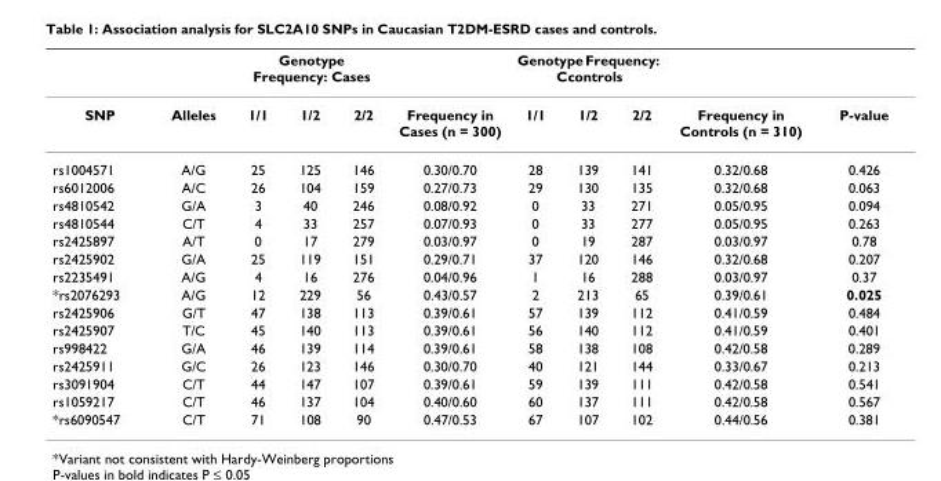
<table><thead><tr><td rowspan="2">SNP</td><td rowspan="2">Alleles</td><td colspan="3">Genotype Frequency: Cases</td><td rowspan="2">Frequency in Cases (n = 300)</td><td colspan="3">Genotype Frequency: Ccontrols</td><td rowspan="2">Frequency in Controls (n = 310)</td><td rowspan="2">P-value</td></tr><tr><td>1/1</td><td>1/2</td><td>2/2</td><td>1/1</td><td>1/2</td><td>2/2</td></tr></thead><tbody><tr><td>rs1004571</td><td>A/G</td><td>25</td><td>125</td><td>146</td><td>0.30/0.70</td><td>28</td><td>139</td><td>141</td><td>0.32/0.68</td><td>0.426</td></tr><tr><td>rs6012006</td><td>A/C</td><td>26</td><td>104</td><td>159</td><td>0.27/0.73</td><td>29</td><td>130</td><td>135</td><td>0.32/0.68</td><td>0.063</td></tr><tr><td>rs4810542</td><td>G/A</td><td>3</td><td>40</td><td>246</td><td>0.08/0.92</td><td>0</td><td>33</td><td>271</td><td>0.05/0.95</td><td>0.094</td></tr><tr><td>rs4810544</td><td>C/T</td><td>4</td><td>33</td><td>257</td><td>0.07/0.93</td><td>0</td><td>33</td><td>277</td><td>0.05/0.95</td><td>0.263</td></tr><tr><td>rs2425897</td><td>A/T</td><td>0</td><td>17</td><td>279</td><td>0.03/0.97</td><td>0</td><td>19</td><td>287</td><td>0.03/0.97</td><td>0.78</td></tr><tr><td>rs2425902</td><td>G/A</td><td>25</td><td>119</td><td>151</td><td>0.29/0.71</td><td>37</td><td>120</td><td>146</td><td>0.32/0.68</td><td>0.207</td></tr><tr><td>rs2235491</td><td>A/G</td><td>4</td><td>16</td><td>276</td><td>0.04/0.96</td><td>1</td><td>16</td><td>288</td><td>0.03/0.97</td><td>0.37</td></tr><tr><td>*rs2076293</td><td>A/G</td><td>12</td><td>229</td><td>56</td><td>0.43/0.57</td><td>2</td><td>213</td><td>65</td><td>0.39/0.61</td><td>0.025</td></tr><tr><td>rs2425906</td><td>G/T</td><td>47</td><td>138</td><td>113</td><td>0.39/0.61</td><td>57</td><td>139</td><td>112</td><td>0.41/0.59</td><td>0.484</td></tr><tr><td>rs2425907</td><td>T/C</td><td>45</td><td>140</td><td>113</td><td>0.39/0.61</td><td>56</td><td>140</td><td>112</td><td>0.41/0.59</td><td>0.401</td></tr><tr><td>rs998422</td><td>G/A</td><td>46</td><td>139</td><td>114</td><td>0.39/0.61</td><td>58</td><td>138</td><td>108</td><td>0.42/0.58</td><td>0.289</td></tr><tr><td>rs2425911</td><td>G/C</td><td>26</td><td>123</td><td>146</td><td>0.30/0.70</td><td>40</td><td>121</td><td>144</td><td>0.33/0.67</td><td>0.213</td></tr><tr><td>rs3091904</td><td>C/T</td><td>44</td><td>147</td><td>107</td><td>0.39/0.61</td><td>59</td><td>139</td><td>111</td><td>0.42/0.58</td><td>0.541</td></tr><tr><td>rs1059217</td><td>C/T</td><td>46</td><td>137</td><td>104</td><td>0.40/0.60</td><td>60</td><td>137</td><td>111</td><td>0.42/0.58</td><td>0.567</td></tr><tr><td>*rs6090547</td><td>C/T</td><td>71</td><td>108</td><td>90</td><td>0.47/0.53</td><td>67</td><td>107</td><td>102</td><td>0.44/0.56</td><td>0.381</td></tr></tbody></table>